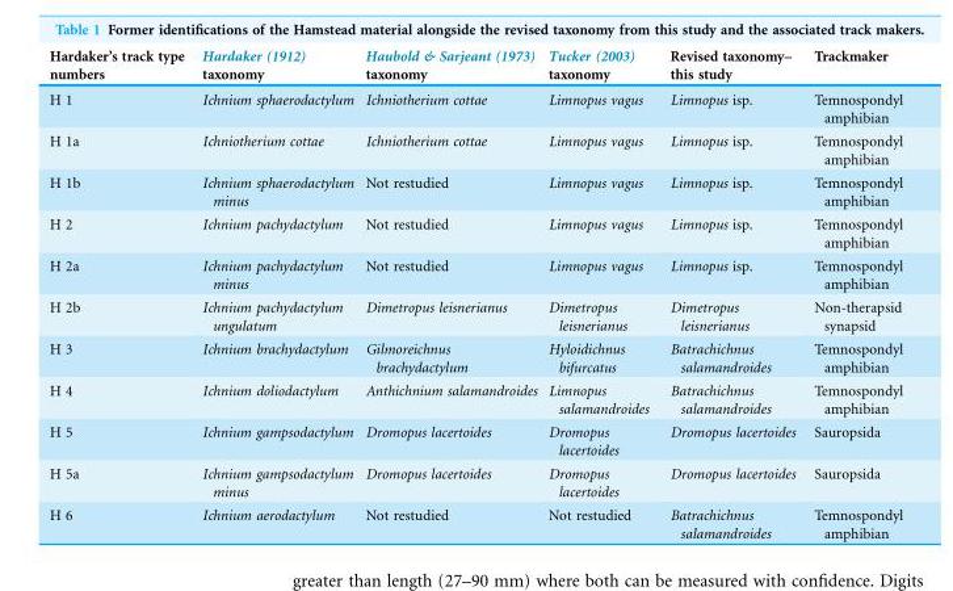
<table><thead><tr><td>Hardaker’s track type numbers</td><td>Hardaker (1912) taxonomy</td><td>Haubold &amp; Sarjeant (1973) taxonomy</td><td>Tucker (2003) taxonomy</td><td>Revised taxonomy– this study</td><td>Trackmaker</td></tr></thead><tbody><tr><td>H 1</td><td>Ichnium sphaerodactylum</td><td>Ichniotherium cottae</td><td>Limnopus vagus</td><td>Limnopus isp.</td><td>Temnospondyl amphibian</td></tr><tr><td>H 1a</td><td>Ichniotherium cottae</td><td>Ichniotherium cottae</td><td>Limnopus vagus</td><td>Limnopus isp.</td><td>Temnospondyl amphibian</td></tr><tr><td>H 1b</td><td>Ichnium sphaerodactylum minus</td><td>Not restudied</td><td>Limnopus vagus</td><td>Limnopus isp.</td><td>Temnospondyl amphibian</td></tr><tr><td>H 2</td><td>Ichnium pachydactylum</td><td>Not restudied</td><td>Limnopus vagus</td><td>Limnopus isp.</td><td>Temnospondyl amphibian</td></tr><tr><td>H 2a</td><td>Ichnium pachydactylum minus</td><td>Not restudied</td><td>Limnopus vagus</td><td>Limnopus isp.</td><td>Temnospondyl amphibian</td></tr><tr><td>H 2b</td><td>Ichnium pachydactylum ungulatum</td><td>Dimetropus leisnerianus</td><td>Dimetropus leisnerianus</td><td>Dimetropus leisnerianus</td><td>Non-therapsid synapsid</td></tr><tr><td>H 3</td><td>Ichnium brachydactylum</td><td>Gilmoreichnus brachydactylum</td><td>Hyloidichnus bifurcatus</td><td>Batrachichnus salamandroides</td><td>Temnospondyl amphibian</td></tr><tr><td>H 4</td><td>Ichnium doliodactylum</td><td>Anthichnium salamandroides</td><td>Limnopus salamandroides</td><td>Batrachichnus salamandroides</td><td>Temnospondyl amphibian</td></tr><tr><td>H 5</td><td>Ichnium gampsodactylum</td><td>Dromopus lacertoides</td><td>Dromopus lacertoides</td><td>Dromopus lacertoides</td><td>Sauropsida</td></tr><tr><td>H 5a</td><td>Ichnium gampsodactylum minus</td><td>Dromopus lacertoides</td><td>Dromopus lacertoides</td><td>Dromopus lacertoides</td><td>Sauropsida</td></tr><tr><td>H 6</td><td>Ichnium aerodactylum</td><td>Not restudied</td><td>Not restudied</td><td>Batrachichnus salamandroides</td><td>Temnospondyl amphibian</td></tr></tbody></table>